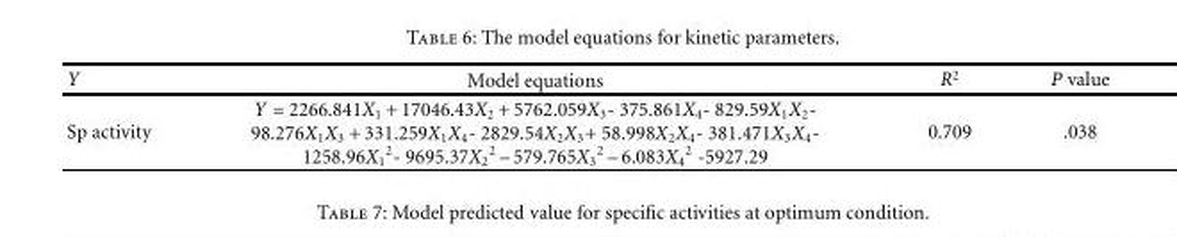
<table><thead><tr><td>Y</td><td>Model equations</td><td>R<sup>2</sup></td><td>P value</td></tr></thead><tbody><tr><td>Sp activity</td><td>Y = 2266.841X1 + 17046.43X2 + 5762.059X3- 375.861X4- 829.59X1X2- 98.276X1X3 + 331.259X1X4- 2829.54X2X3+ 58.998X2X4- 381.471X3X4- 1258.96X1 2- 9695.37X2 2 – 579.765X3 2 – 6.083X4 2 -5927.29</td><td>0.709</td><td>.038</td></tr></tbody></table>